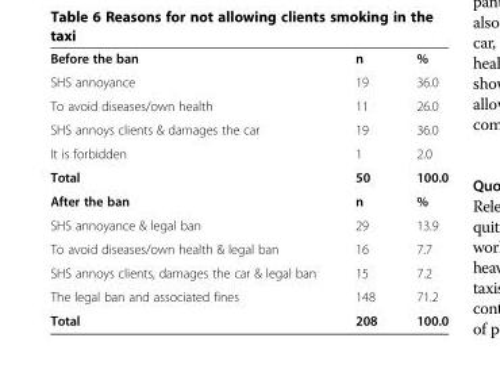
<table><tbody><tr><td>Before the ban</td><td>n</td><td>%</td></tr><tr><td>SHS annoyance</td><td>19</td><td>36.0</td></tr><tr><td>To avoid diseases/own health</td><td>11</td><td>26.0</td></tr><tr><td>SHS annoys clients &amp; damages the car</td><td>19</td><td>36.0</td></tr><tr><td>It is forbidden</td><td>1</td><td>2.0</td></tr><tr><td>Total</td><td>50</td><td>100.0</td></tr><tr><td>After the ban</td><td>n</td><td>%</td></tr><tr><td>SHS annoyance &amp; legal ban</td><td>29</td><td>13.9</td></tr><tr><td>To avoid diseases/own health &amp; legal ban</td><td>16</td><td>7.7</td></tr><tr><td>SHS annoys clients, damages the car &amp; legal ban</td><td>15</td><td>7.2</td></tr><tr><td>The legal ban and associated fines</td><td>148</td><td>71.2</td></tr><tr><td>Total</td><td>208</td><td>100.0</td></tr></tbody></table>